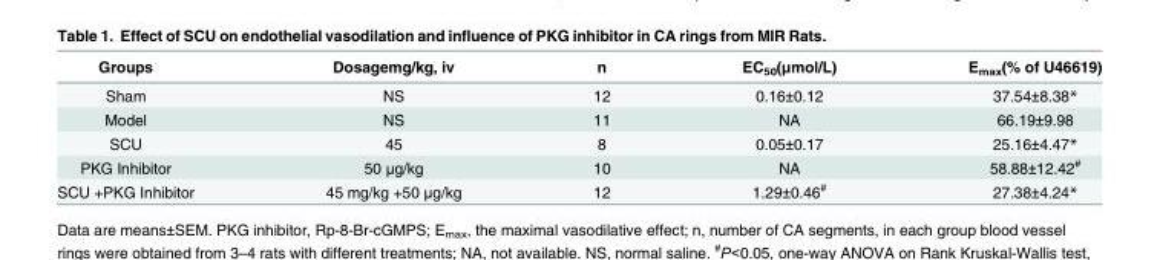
<table><thead><tr><td>Groups</td><td>Dosagemg/kg, iv</td><td>n</td><td>EC<sub>50</sub>(μmol/L)</td><td>E<sub>max</sub>(% of U46619)</td></tr></thead><tbody><tr><td>Sham</td><td>NS</td><td>12</td><td>0.16±0.12</td><td>37.54±8.38*</td></tr><tr><td>Model</td><td>NS</td><td>11</td><td>NA</td><td>66.19±9.98</td></tr><tr><td>SCU</td><td>45</td><td>8</td><td>0.05±0.17</td><td>25.16±4.47*</td></tr><tr><td>PKG Inhibitor</td><td>50 μg/kg</td><td>10</td><td>NA</td><td>58.88±12.42<sup>#</sup></td></tr><tr><td>SCU +PKG Inhibitor</td><td>45 mg/kg +50 μg/kg</td><td>12</td><td>1.29±0.46<sup>#</sup></td><td>27.38±4.24*</td></tr></tbody></table>